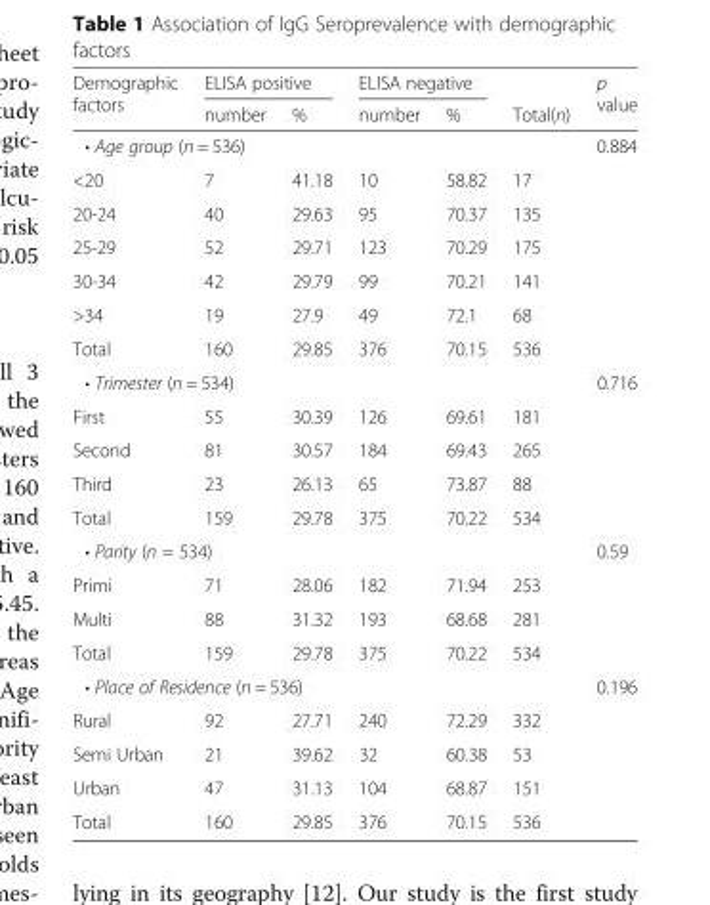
<table><thead><tr><td rowspan="2">Demographic factors</td><td colspan="2">ELISA positive</td><td colspan="2">ELISA negative</td><td rowspan="2">Total(n)</td><td rowspan="2">p value</td></tr><tr><td>number</td><td>%</td><td>number</td><td>%</td></tr></thead><tbody><tr><td colspan="5">• Age group (n = 536)</td><td></td><td>0.884</td></tr><tr><td>&lt;20</td><td>7</td><td>41.18</td><td>10</td><td>58.82</td><td>17</td><td></td></tr><tr><td>20-24</td><td>40</td><td>29.63</td><td>95</td><td>70.37</td><td>135</td><td></td></tr><tr><td>25-29</td><td>52</td><td>29.71</td><td>123</td><td>70.29</td><td>175</td><td></td></tr><tr><td>30-34</td><td>42</td><td>29.79</td><td>99</td><td>70.21</td><td>141</td><td></td></tr><tr><td>&gt;34</td><td>19</td><td>27.9</td><td>49</td><td>72.1</td><td>68</td><td></td></tr><tr><td>Total</td><td>160</td><td>29.85</td><td>376</td><td>70.15</td><td>536</td><td></td></tr><tr><td colspan="5">• Trimester (n = 534)</td><td></td><td>0.716</td></tr><tr><td>First</td><td>55</td><td>30.39</td><td>126</td><td>69.61</td><td>181</td><td></td></tr><tr><td>Second</td><td>81</td><td>30.57</td><td>184</td><td>69.43</td><td>265</td><td></td></tr><tr><td>Third</td><td>23</td><td>26.13</td><td>65</td><td>73.87</td><td>88</td><td></td></tr><tr><td>Total</td><td>159</td><td>29.78</td><td>375</td><td>70.22</td><td>534</td><td></td></tr><tr><td colspan="5">• Parity (n = 534)</td><td></td><td>0.59</td></tr><tr><td>Primi</td><td>71</td><td>28.06</td><td>182</td><td>71.94</td><td>253</td><td></td></tr><tr><td>Multi</td><td>88</td><td>31.32</td><td>193</td><td>68.68</td><td>281</td><td></td></tr><tr><td>Total</td><td>159</td><td>29.78</td><td>375</td><td>70.22</td><td>534</td><td></td></tr><tr><td colspan="5">• Place of Residence (n = 536)</td><td></td><td>0.196</td></tr><tr><td>Rural</td><td>92</td><td>27.71</td><td>240</td><td>72.29</td><td>332</td><td></td></tr><tr><td>Semi Urban</td><td>21</td><td>39.62</td><td>32</td><td>60.38</td><td>53</td><td></td></tr><tr><td>Urban</td><td>47</td><td>31.13</td><td>104</td><td>68.87</td><td>151</td><td></td></tr><tr><td>Total</td><td>160</td><td>29.85</td><td>376</td><td>70.15</td><td>536</td><td></td></tr></tbody></table>